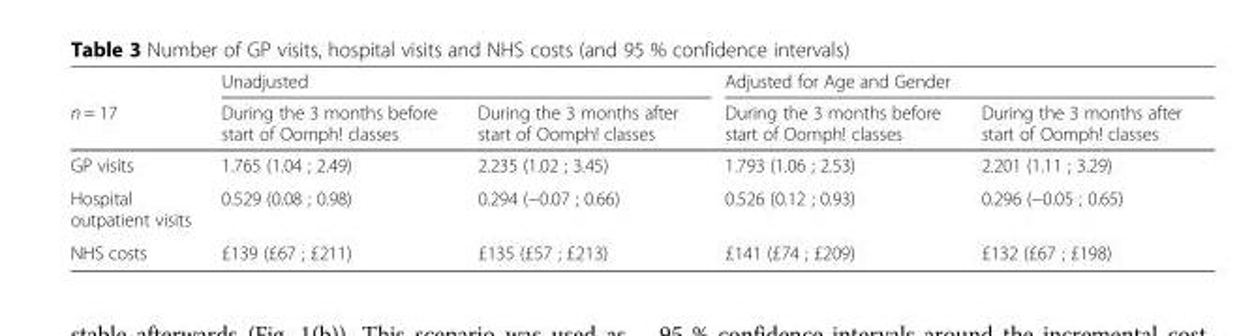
<table><thead><tr><td rowspan="2">n = 17</td><td colspan="2">Unadjusted</td><td colspan="2">Adjusted for Age and Gender</td></tr><tr><td>During the 3 months before start of Oomph! classes</td><td>During the 3 months after start of Oomph! classes</td><td>During the 3 months before start of Oomph! classes</td><td>During the 3 months after start of Oomph! classes</td></tr></thead><tbody><tr><td>GP visits</td><td>1.765 (1.04 ; 2.49)</td><td>2.235 (1.02 ; 3.45)</td><td>1.793 (1.06 ; 2.53)</td><td>2.201 (1.11 ; 3.29)</td></tr><tr><td>Hospital outpatient visits</td><td>0.529 (0.08 ; 0.98)</td><td>0.294 (−0.07 ; 0.66)</td><td>0.526 (0.12 ; 0.93)</td><td>0.296 (−0.05 ; 0.65)</td></tr><tr><td>NHS costs</td><td>£139 (£67 ; £211)</td><td>£135 (£57 ; £213)</td><td>£141 (£74 ; £209)</td><td>£132 (£67 ; £198)</td></tr></tbody></table>